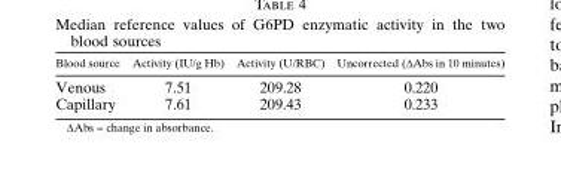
<table><thead><tr><td>Blood source</td><td>Activity (IU/g Hb)</td><td>Activity (U/RBC)</td><td>Uncorrected (ΔAbs in 10 minutes)</td></tr></thead><tbody><tr><td>Venous</td><td>7.51</td><td>209.28</td><td>0.220</td></tr><tr><td>Capillary</td><td>7.61</td><td>209.43</td><td>0.233</td></tr></tbody></table>